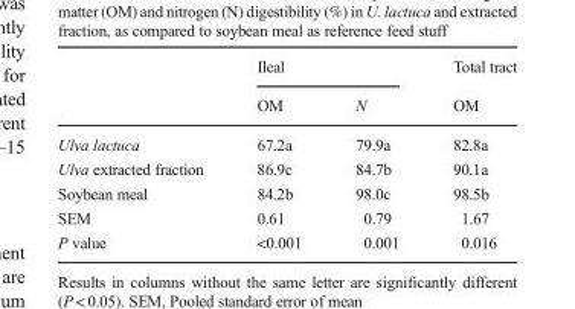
<table><thead><tr><td rowspan="2"></td><td colspan="2">Ileal</td><td rowspan="2">Total tract OM</td></tr><tr><td>OM</td><td>N</td></tr></thead><tbody><tr><td>Ulva lactuca</td><td>67.2a</td><td>79.9a</td><td>82.8a</td></tr><tr><td>Ulva extracted fraction</td><td>86.9c</td><td>84.7b</td><td>90.1a</td></tr><tr><td>Soybean meal</td><td>84.2b</td><td>98.0c</td><td>98.5b</td></tr><tr><td>SEM</td><td>0.61</td><td>0.79</td><td>1.67</td></tr><tr><td>P value</td><td>&lt;0.001</td><td>0.001</td><td>0.016</td></tr></tbody></table>